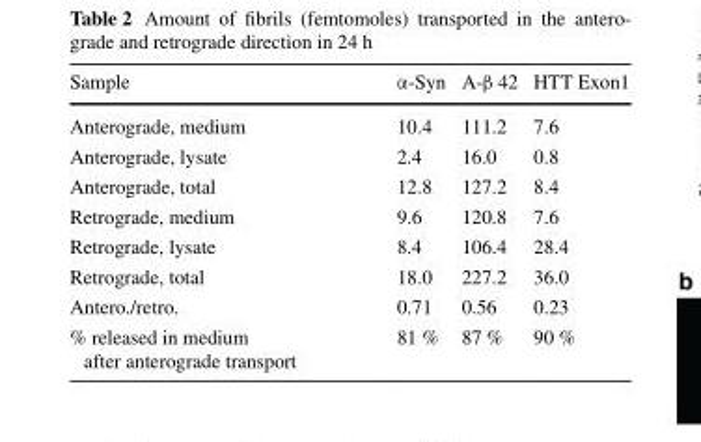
<table><thead><tr><td>Sample</td><td>α-Syn</td><td>A-β 42</td><td>HTT Exon1</td></tr></thead><tbody><tr><td>Anterograde, medium</td><td>10.4</td><td>111.2</td><td>7.6</td></tr><tr><td>Anterograde, lysate</td><td>2.4</td><td>16.0</td><td>0.8</td></tr><tr><td>Anterograde, total</td><td>12.8</td><td>127.2</td><td>8.4</td></tr><tr><td>Retrograde, medium</td><td>9.6</td><td>120.8</td><td>7.6</td></tr><tr><td>Retrograde, lysate</td><td>8.4</td><td>106.4</td><td>28.4</td></tr><tr><td>Retrograde, total</td><td>18.0</td><td>227.2</td><td>36.0</td></tr><tr><td>Antero./retro.</td><td>0.71</td><td>0.56</td><td>0.23</td></tr><tr><td>% released in medium after anterograde transport</td><td>81 %</td><td>87 %</td><td>90 %</td></tr></tbody></table>